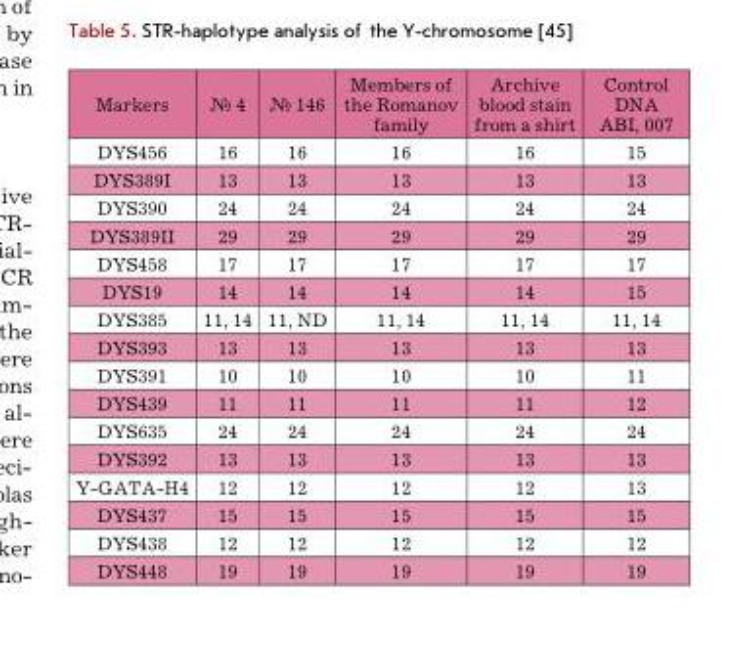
<table><thead><tr><td>Markers</td><td>№ 4</td><td>№ 146</td><td>Members of the romanov family</td><td>Archive blood stain from a shirt</td><td>control DnA ABI, 007</td></tr></thead><tbody><tr><td>DYS456</td><td>16</td><td>16</td><td>16</td><td>16</td><td>15</td></tr><tr><td>DYS389I</td><td>13</td><td>13</td><td>13</td><td>13</td><td>13</td></tr><tr><td>DYS390</td><td>24</td><td>24</td><td>24</td><td>24</td><td>24</td></tr><tr><td>DYS389II</td><td>29</td><td>29</td><td>29</td><td>29</td><td>29</td></tr><tr><td>DYS458</td><td>17</td><td>17</td><td>17</td><td>17</td><td>17</td></tr><tr><td>DYS19</td><td>14</td><td>14</td><td>14</td><td>14</td><td>15</td></tr><tr><td>DYS385</td><td>11, 14</td><td>11, nD</td><td>11, 14</td><td>11, 14</td><td>11, 14</td></tr><tr><td>DYS393</td><td>13</td><td>13</td><td>13</td><td>13</td><td>13</td></tr><tr><td>DYS391</td><td>10</td><td>10</td><td>10</td><td>10</td><td>11</td></tr><tr><td>DYS439</td><td>11</td><td>11</td><td>11</td><td>11</td><td>12</td></tr><tr><td>DYS635</td><td>24</td><td>24</td><td>24</td><td>24</td><td>24</td></tr><tr><td>DYS392</td><td>13</td><td>13</td><td>13</td><td>13</td><td>13</td></tr><tr><td>Y-GAtA-H4</td><td>12</td><td>12</td><td>12</td><td>12</td><td>13</td></tr><tr><td>DYS437</td><td>15</td><td>15</td><td>15</td><td>15</td><td>15</td></tr><tr><td>DYS438</td><td>12</td><td>12</td><td>12</td><td>12</td><td>12</td></tr><tr><td>DYS448</td><td>19</td><td>19</td><td>19</td><td>19</td><td>19</td></tr></tbody></table>